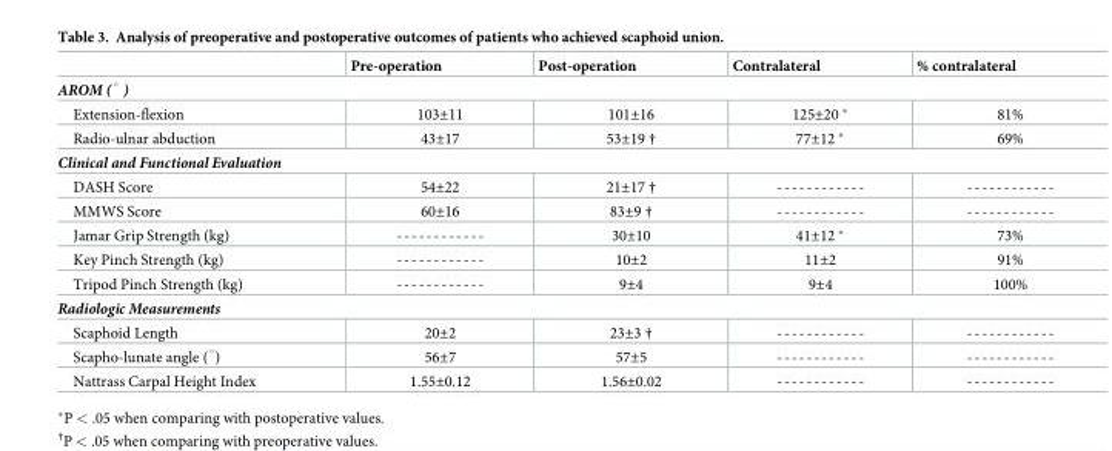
<table><thead><tr><td></td><td>Pre-operation</td><td>Post-operation</td><td>Contralateral</td><td>% contralateral</td></tr></thead><tbody><tr><td colspan="5">AROM (<sup>◦</sup> )</td></tr><tr><td>Extension-flexion</td><td>103±11</td><td>101±16</td><td>125±20 *</td><td>81%</td></tr><tr><td>Radio-ulnar abduction</td><td>43±17</td><td>53±19 †</td><td>77±12 *</td><td>69%</td></tr><tr><td colspan="5">Clinical and Functional Evaluation</td></tr><tr><td>DASH Score</td><td>54±22</td><td>21±17 †</td><td>------------</td><td>------------</td></tr><tr><td>MMWS Score</td><td>60±16</td><td>83±9 †</td><td>------------</td><td>------------</td></tr><tr><td>Jamar Grip Strength (kg)</td><td>------------</td><td>30±10</td><td>41±12 *</td><td>73%</td></tr><tr><td>Key Pinch Strength (kg)</td><td>------------</td><td>10±2</td><td>11±2</td><td>91%</td></tr><tr><td>Tripod Pinch Strength (kg)</td><td>------------</td><td>9±4</td><td>9±4</td><td>100%</td></tr><tr><td colspan="5">Radiologic Measurements</td></tr><tr><td>Scaphoid Length</td><td>20±2</td><td>23±3 †</td><td>------------</td><td>------------</td></tr><tr><td>Scapho-lunate angle (<sup>◦</sup>)</td><td>56±7</td><td>57±5</td><td>------------</td><td>------------</td></tr><tr><td>Nattrass Carpal Height Index</td><td>1.55±0.12</td><td>1.56±0.02</td><td>------------</td><td>------------</td></tr></tbody></table>